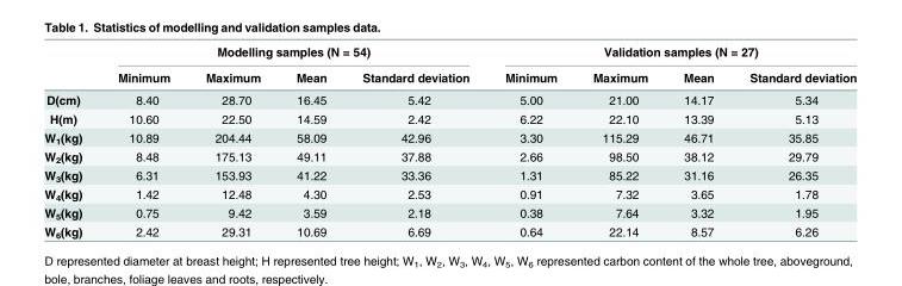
<table><thead><tr><td rowspan="2"></td><td colspan="4">Modelling samples (N = 54)</td><td colspan="4">Validation samples (N = 27)</td></tr><tr><td>Minimum</td><td>Maximum</td><td>Mean</td><td>Standard deviation</td><td>Minimum</td><td>Maximum</td><td>Mean</td><td>Standard deviation</td></tr></thead><tbody><tr><td>D(cm)</td><td>8.40</td><td>28.70</td><td>16.45</td><td>5.42</td><td>5.00</td><td>21.00</td><td>14.17</td><td>5.34</td></tr><tr><td>H(m)</td><td>10.60</td><td>22.50</td><td>14.59</td><td>2.42</td><td>6.22</td><td>22.10</td><td>13.39</td><td>5.13</td></tr><tr><td>W<sub>1</sub>(kg)</td><td>10.89</td><td>204.44</td><td>58.09</td><td>42.96</td><td>3.30</td><td>115.29</td><td>46.71</td><td>35.85</td></tr><tr><td>W<sub>2</sub>(kg)</td><td>8.48</td><td>175.13</td><td>49.11</td><td>37.88</td><td>2.66</td><td>98.50</td><td>38.12</td><td>29.79</td></tr><tr><td>W<sub>3</sub>(kg)</td><td>6.31</td><td>153.93</td><td>41.22</td><td>33.36</td><td>1.31</td><td>85.22</td><td>31.16</td><td>26.35</td></tr><tr><td>W<sub>4</sub>(kg)</td><td>1.42</td><td>12.48</td><td>4.30</td><td>2.53</td><td>0.91</td><td>7.32</td><td>3.65</td><td>1.78</td></tr><tr><td>W<sub>5</sub>(kg)</td><td>0.75</td><td>9.42</td><td>3.59</td><td>2.18</td><td>0.38</td><td>7.64</td><td>3.32</td><td>1.95</td></tr><tr><td>W<sub>6</sub>(kg)</td><td>2.42</td><td>29.31</td><td>10.69</td><td>6.69</td><td>0.64</td><td>22.14</td><td>8.57</td><td>6.26</td></tr></tbody></table>